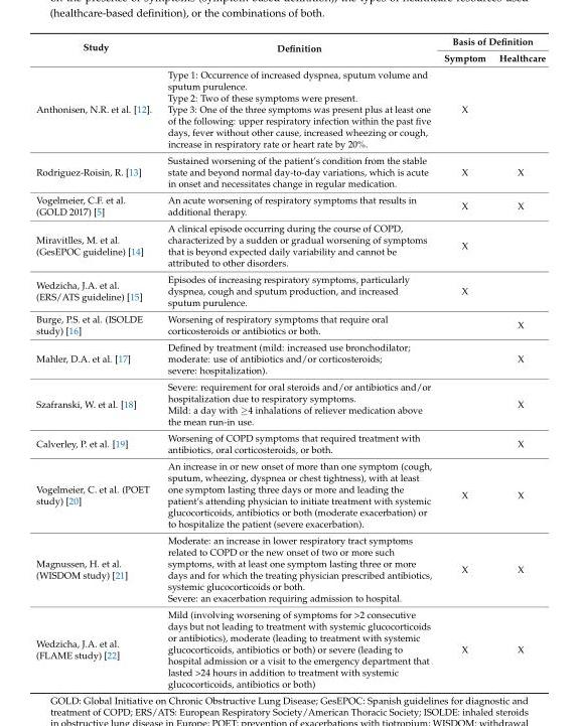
<table><thead><tr><td rowspan="2">Study</td><td rowspan="2">Definition</td><td colspan="2">Basis of Definition</td></tr><tr><td>Symptom</td><td>Healthcare</td></tr></thead><tbody><tr><td>Anthonisen, N.R. et al. [12].</td><td>Type 1: Occurrence of increased dyspnea, sputum volume and sputum purulence. Type 2: Two of these symptoms were present. Type 3: One of the three symptoms was present plus at least one of the following: upper respiratory infection within the past five days, fever without other cause, increased wheezing or cough, increase in respiratory rate or heart rate by 20%.</td><td>X</td><td></td></tr><tr><td>Rodriguez-Roisin, R. [13]</td><td>Sustained worsening of the patient’s condition from the stable state and beyond normal day-to-day variations, which is acute in onset and necessitates change in regular medication.</td><td>X</td><td>X</td></tr><tr><td>Vogelmeier, C.F. et al. (GOLD 2017) [5]</td><td>An acute worsening of respiratory symptoms that results in additional therapy.</td><td>X</td><td>X</td></tr><tr><td>Miravitlles, M. et al. (GesEPOC guideline) [14]</td><td>A clinical episode occurring during the course of COPD, characterized by a sudden or gradual worsening of symptoms that is beyond expected daily variability and cannot be attributed to other disorders.</td><td>X</td><td></td></tr><tr><td>Wedzicha, J.A. et al. (ERS/ATS guideline) [15]</td><td>Episodes of increasing respiratory symptoms, particularly dyspnea, cough and sputum production, and increased sputum purulence.</td><td>X</td><td></td></tr><tr><td>Burge, P.S. et al. (ISOLDE study) [16]</td><td>Worsening of respiratory symptoms that require oral corticosteroids or antibiotics or both.</td><td></td><td>X</td></tr><tr><td>Mahler, D.A. et al. [17]</td><td>Defined by treatment (mild: increased use bronchodilator; moderate: use of antibiotics and/or corticosteroids; severe: hospitalization).</td><td></td><td>X</td></tr><tr><td>Szafranski, W. et al. [18]</td><td>Severe: requirement for oral steroids and/or antibiotics and/or hospitalization due to respiratory symptoms. Mild: a day with ≥4 inhalations of reliever medication above the mean run-in use.</td><td></td><td>X</td></tr><tr><td>Calverley, P. et al. [19]</td><td>Worsening of COPD symptoms that required treatment with antibiotics, oral corticosteroids, or both.</td><td></td><td>X</td></tr><tr><td>Vogelmeier, C. et al. (POET study) [20]</td><td>An increase in or new onset of more than one symptom (cough, sputum, wheezing, dyspnea or chest tightness), with at least one symptom lasting three days or more and leading the patient’s attending physician to initiate treatment with systemic glucocorticoids, antibiotics or both (moderate exacerbation) or to hospitalize the patient (severe exacerbation).</td><td>X</td><td>X</td></tr><tr><td>Magnussen, H. et al. (WISDOM study) [21]</td><td>Moderate: an increase in lower respiratory tract symptoms related to COPD or the new onset of two or more such symptoms, with at least one symptom lasting three or more days and for which the treating physician prescribed antibiotics, systemic glucocorticoids or both. Severe: an exacerbation requiring admission to hospital.</td><td>X</td><td>X</td></tr><tr><td>Wedzicha, J.A. et al. (FLAME study) [22]</td><td>Mild (involving worsening of symptoms for &gt;2 consecutive days but not leading to treatment with systemic glucocorticoids or antibiotics), moderate (leading to treatment with systemic glucocorticoids, antibiotics or both) or severe (leading to hospital admission or a visit to the emergency department that lasted &gt;24 hours in addition to treatment with systemic glucocorticoids, antibiotics or both)</td><td>X</td><td>X</td></tr></tbody></table>